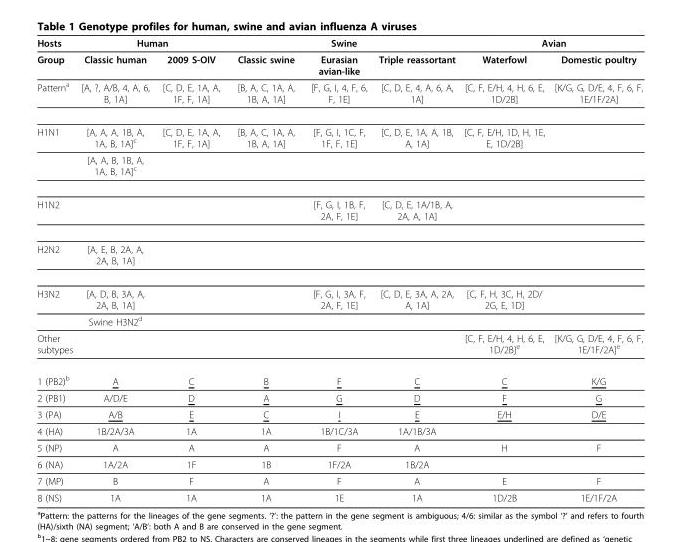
<table><thead><tr><td rowspan="2">Hosts Group</td><td colspan="2">Human</td><td colspan="3">Swine</td><td colspan="2">Avian</td></tr><tr><td>Classic human</td><td>2009 S-OIV</td><td>Classic swine</td><td>Eurasian avian-like</td><td>Triple reassortant</td><td>Waterfowl</td><td>Domestic poultry</td></tr></thead><tbody><tr><td>Patterna</td><td>[A, ?, A/B, 4, A, 6, B, 1A]</td><td>[C, D, E, 1A, A, 1F, F, 1A]</td><td>[B, A, C, 1A, A, 1B, A, 1A]</td><td>[F, G, I, 4, F, 6, F, 1E]</td><td>[C, D, E, 4, A, 6, A, 1A]</td><td>[C, F, E/H, 4, H, 6, E, 1D/2B]</td><td>[K/G, G, D/E, 4, F, 6, F, 1E/1F/2A]</td></tr><tr><td rowspan="2">H1N1</td><td>[A, A, A, 1B, A, 1A, B, 1A]c</td><td>[C, D, E, 1A, A, 1F, F, 1A]</td><td>[B, A, C, 1A, A, 1B, A, 1A]</td><td>[F, G, I, 1C, F, 1F, F, 1E]</td><td>[C, D, E, 1A, A, 1B, A, 1A]</td><td>[C, F, E/H, 1D, H, 1E, E, 1D/2B]</td><td></td></tr><tr><td>[A, A, B, 1B, A, 1A, B, 1A]c</td><td></td><td></td><td></td><td></td><td></td><td></td></tr><tr><td>H1N2</td><td></td><td></td><td></td><td>[F, G, I, 1B, F, 2A, F, 1E]</td><td>[C, D, E, 1A/1B, A, 2A, A, 1A]</td><td></td><td></td></tr><tr><td>H2N2</td><td>[A, E, B, 2A, A, 2A, B, 1A]</td><td></td><td></td><td></td><td></td><td></td><td></td></tr><tr><td rowspan="2">H3N2</td><td>[A, D, B, 3A, A, 2A, B, 1A]</td><td></td><td></td><td>[F, G, I, 3A, F, 2A, F, 1E]</td><td>[C, D, E, 3A, A, 2A, A, 1A]</td><td>[C, F, H, 3C, H, 2D/ 2G, E, 1D]</td><td></td></tr><tr><td>Swine H3N2d</td><td></td><td></td><td></td><td></td><td></td><td></td></tr><tr><td>Other subtypes</td><td></td><td></td><td></td><td></td><td></td><td>[C, F, E/H, 4, H, 6, E, 1D/2B]e</td><td>[K/G, G, D/E, 4, F, 6, F, 1E/1F/2A]e</td></tr><tr><td>1 (PB2)b</td><td>A</td><td>C</td><td>B</td><td>F</td><td>C</td><td>C</td><td>K/G</td></tr><tr><td>2 (PB1)</td><td>A/D/E</td><td>D</td><td>A</td><td>G</td><td>D</td><td>F</td><td>G</td></tr><tr><td>3 (PA)</td><td>A/B</td><td>E</td><td>C</td><td>I</td><td>E</td><td>E/H</td><td>D/E</td></tr><tr><td>4 (HA)</td><td>1B/2A/3A</td><td>1A</td><td>1A</td><td>1B/1C/3A</td><td>1A/1B/3A</td><td></td><td></td></tr><tr><td>5 (NP)</td><td>A</td><td>A</td><td>A</td><td>F</td><td>A</td><td>H</td><td>F</td></tr><tr><td>6 (NA)</td><td>1A/2A</td><td>1F</td><td>1B</td><td>1F/2A</td><td>1B/2A</td><td></td><td></td></tr><tr><td>7 (MP)</td><td>B</td><td>F</td><td>A</td><td>F</td><td>A</td><td>E</td><td>F</td></tr><tr><td>8 (NS)</td><td>1A</td><td>1A</td><td>1A</td><td>1E</td><td>1A</td><td>1D/2B</td><td>1E/1F/2A</td></tr></tbody></table>